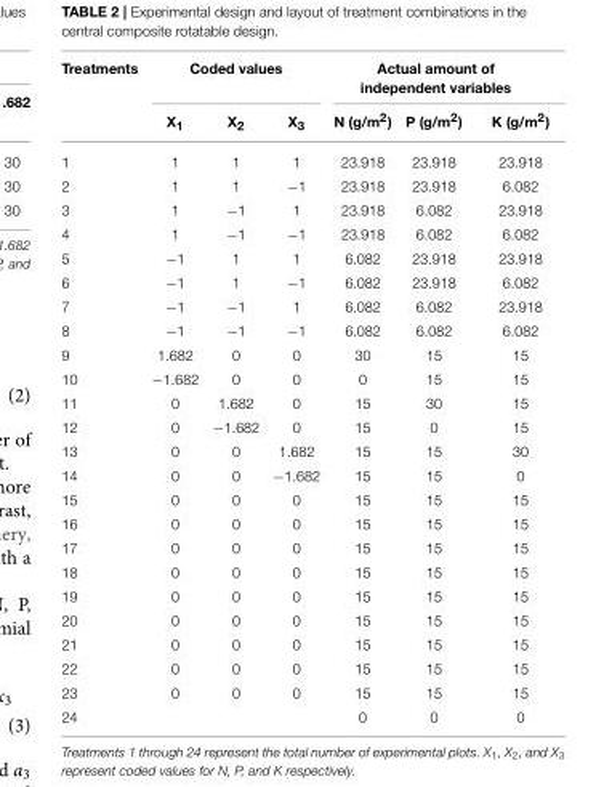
<table><thead><tr><td rowspan="2">Treatments</td><td colspan="3">Coded values</td><td colspan="3">Actual amount of independent variables</td></tr><tr><td>X<sub>1</sub></td><td>X<sub>2</sub></td><td>X<sub>3</sub></td><td>N (g/m<sup>2</sup>)</td><td>P (g/m<sup>2</sup>)</td><td>K (g/m<sup>2</sup>)</td></tr></thead><tbody><tr><td>1</td><td>1</td><td>1</td><td>1</td><td>23.918</td><td>23.918</td><td>23.918</td></tr><tr><td>2</td><td>1</td><td>1</td><td>−1</td><td>23.918</td><td>23.918</td><td>6.082</td></tr><tr><td>3</td><td>1</td><td>−1</td><td>1</td><td>23.918</td><td>6.082</td><td>23.918</td></tr><tr><td>4</td><td>1</td><td>−1</td><td>−1</td><td>23.918</td><td>6.082</td><td>6.082</td></tr><tr><td>5</td><td>−1</td><td>1</td><td>1</td><td>6.082</td><td>23.918</td><td>23.918</td></tr><tr><td>6</td><td>−1</td><td>1</td><td>−1</td><td>6.082</td><td>23.918</td><td>6.082</td></tr><tr><td>7</td><td>−1</td><td>−1</td><td>1</td><td>6.082</td><td>6.082</td><td>23.918</td></tr><tr><td>8</td><td>−1</td><td>−1</td><td>−1</td><td>6.082</td><td>6.082</td><td>6.082</td></tr><tr><td>9</td><td>1.682</td><td>0</td><td>0</td><td>30</td><td>15</td><td>15</td></tr><tr><td>10</td><td>−1.682</td><td>0</td><td>0</td><td>0</td><td>15</td><td>15</td></tr><tr><td>11</td><td>0</td><td>1.682</td><td>0</td><td>15</td><td>30</td><td>15</td></tr><tr><td>12</td><td>0</td><td>−1.682</td><td>0</td><td>15</td><td>0</td><td>15</td></tr><tr><td>13</td><td>0</td><td>0</td><td>1.682</td><td>15</td><td>15</td><td>30</td></tr><tr><td>14</td><td>0</td><td>0</td><td>−1.682</td><td>15</td><td>15</td><td>0</td></tr><tr><td>15</td><td>0</td><td>0</td><td>0</td><td>15</td><td>15</td><td>15</td></tr><tr><td>16</td><td>0</td><td>0</td><td>0</td><td>15</td><td>15</td><td>15</td></tr><tr><td>17</td><td>0</td><td>0</td><td>0</td><td>15</td><td>15</td><td>15</td></tr><tr><td>18</td><td>0</td><td>0</td><td>0</td><td>15</td><td>15</td><td>15</td></tr><tr><td>19</td><td>0</td><td>0</td><td>0</td><td>15</td><td>15</td><td>15</td></tr><tr><td>20</td><td>0</td><td>0</td><td>0</td><td>15</td><td>15</td><td>15</td></tr><tr><td>21</td><td>0</td><td>0</td><td>0</td><td>15</td><td>15</td><td>15</td></tr><tr><td>22</td><td>0</td><td>0</td><td>0</td><td>15</td><td>15</td><td>15</td></tr><tr><td>23</td><td>0</td><td>0</td><td>0</td><td>15</td><td>15</td><td>15</td></tr><tr><td>24</td><td></td><td></td><td></td><td>0</td><td>0</td><td>0</td></tr></tbody></table>